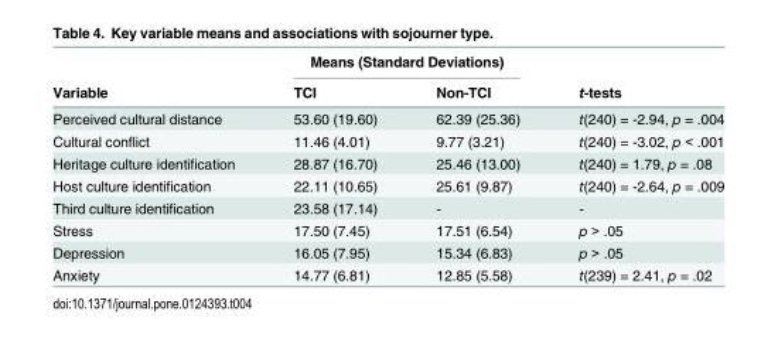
<table><thead><tr><td rowspan="2">Variable</td><td colspan="2">Means (Standard Deviations)</td><td rowspan="2">t-tests</td></tr><tr><td>TCI</td><td>Non-TCI</td></tr></thead><tbody><tr><td>Perceived cultural distance</td><td>53.60 (19.60)</td><td>62.39 (25.36)</td><td>t(240) = -2.94, p = .004</td></tr><tr><td>Cultural conflict</td><td>11.46 (4.01)</td><td>9.77 (3.21)</td><td>t(240) = -3.02, p &lt; .001</td></tr><tr><td>Heritage culture identification</td><td>28.87 (16.70)</td><td>25.46 (13.00)</td><td>t(240) = 1.79, p = .08</td></tr><tr><td>Host culture identification</td><td>22.11 (10.65)</td><td>25.61 (9.87)</td><td>t(240) = -2.64, p = .009</td></tr><tr><td>Third culture identification</td><td>23.58 (17.14)</td><td>-</td><td>-</td></tr><tr><td>Stress</td><td>17.50 (7.45)</td><td>17.51 (6.54)</td><td>p &gt; .05</td></tr><tr><td>Depression</td><td>16.05 (7.95)</td><td>15.34 (6.83)</td><td>p &gt; .05</td></tr><tr><td>Anxiety</td><td>14.77 (6.81)</td><td>12.85 (5.58)</td><td>t(239) = 2.41, p = .02</td></tr></tbody></table>